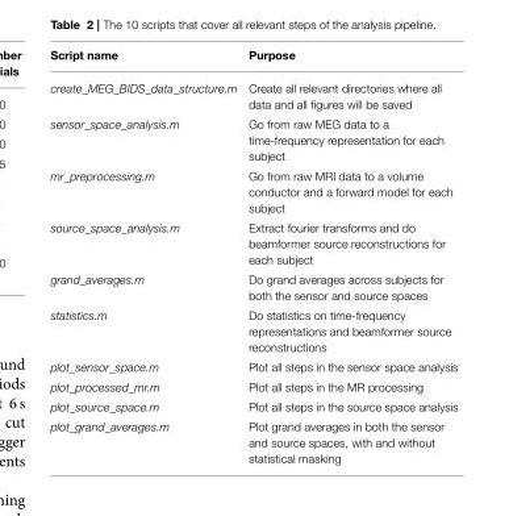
<table><thead><tr><td>Script name</td><td>Purpose</td></tr></thead><tbody><tr><td>create_MEG_BIDS_data_structure.m</td><td>Create all relevant directories where all data and all figures will be saved</td></tr><tr><td>sensor_space_analysis.m</td><td>Go from raw MEG data to a time-frequency representation for each subject</td></tr><tr><td>mr_preprocessing.m</td><td>Go from raw MRI data to a volume conductor and a forward model for each subject</td></tr><tr><td>source_space_analysis.m</td><td>Extract fourier transforms and do beamformer source reconstructions for each subject</td></tr><tr><td>grand_averages.m</td><td>Do grand averages across subjects for both the sensor and source spaces</td></tr><tr><td>statistics.m</td><td>Do statistics on time-frequency representations and beamformer source reconstructions</td></tr><tr><td>plot_sensor_space.m</td><td>Plot all steps in the sensor space analysis</td></tr><tr><td>plot_processed_mr.m</td><td>Plot all steps in the MR processing</td></tr><tr><td>plot_source_space.m</td><td>Plot all steps in the source space analysis</td></tr><tr><td>plot_grand_averages.m</td><td>Plot grand averages in both the sensor and source spaces, with and without statistical masking</td></tr></tbody></table>